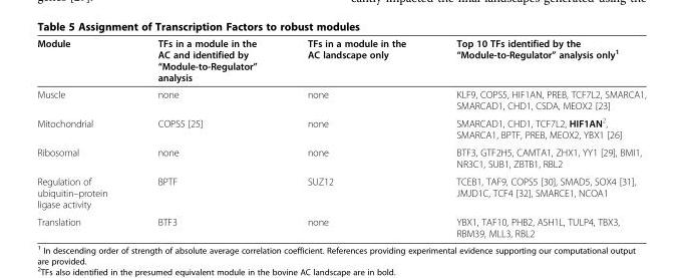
<table><thead><tr><td>Module</td><td>TFs in a module in the AC and identified by “Module-to-Regulator” analysis</td><td>TFs in a module in the AC landscape only</td><td>Top 10 TFs identified by the “Module-to-Regulator” analysis only<sup>1</sup></td></tr></thead><tbody><tr><td>Muscle</td><td>none</td><td>none</td><td>KLF9, COPS5, HIF1AN, PREB, TCF7L2, SMARCA1, SMARCAD1, CHD1, CSDA, MEOX2 [23]</td></tr><tr><td>Mitochondrial</td><td>COPS5 [25]</td><td>none</td><td>SMARCAD1, CHD1, TCF7L2, HIF1AN<sup>2</sup>, SMARCA1, BPTF, PREB, MEOX2, YBX1 [26]</td></tr><tr><td>Ribosomal</td><td>none</td><td>none</td><td>BTF3, GTF2H5, CAMTA1, ZHX1, YY1 [29], BMI1, NR3C1, SUB1, ZBTB1, RBL2</td></tr><tr><td>Regulation of ubiquitin–protein ligase activity</td><td>BPTF</td><td>SUZ12</td><td>TCEB1, TAF9, COPS5 [30], SMAD5, SOX4 [31], JMJD1C, TCF4 [32], SMARCE1, NCOA1</td></tr><tr><td>Translation</td><td>BTF3</td><td>none</td><td>YBX1, TAF10, PHB2, ASH1L, TULP4, TBX3, RBM39, MLL3, RBL2</td></tr></tbody></table>